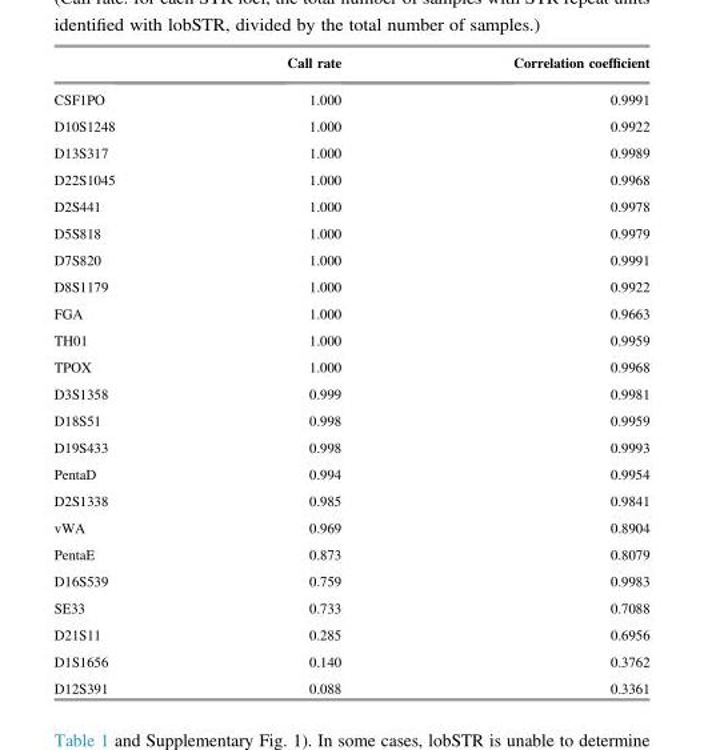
<table><thead><tr><td></td><td>Call rate</td><td>Correlation coefficient</td></tr></thead><tbody><tr><td>CSF1PO</td><td>1.000</td><td>0.9991</td></tr><tr><td>D10S1248</td><td>1.000</td><td>0.9922</td></tr><tr><td>D13S317</td><td>1.000</td><td>0.9989</td></tr><tr><td>D22S1045</td><td>1.000</td><td>0.9968</td></tr><tr><td>D2S441</td><td>1.000</td><td>0.9978</td></tr><tr><td>D5S818</td><td>1.000</td><td>0.9979</td></tr><tr><td>D7S820</td><td>1.000</td><td>0.9991</td></tr><tr><td>D8S1179</td><td>1.000</td><td>0.9922</td></tr><tr><td>FGA</td><td>1.000</td><td>0.9663</td></tr><tr><td>TH01</td><td>1.000</td><td>0.9959</td></tr><tr><td>TPOX</td><td>1.000</td><td>0.9968</td></tr><tr><td>D3S1358</td><td>0.999</td><td>0.9981</td></tr><tr><td>D18S51</td><td>0.998</td><td>0.9959</td></tr><tr><td>D19S433</td><td>0.998</td><td>0.9993</td></tr><tr><td>PentaD</td><td>0.994</td><td>0.9954</td></tr><tr><td>D2S1338</td><td>0.985</td><td>0.9841</td></tr><tr><td>vWA</td><td>0.969</td><td>0.8904</td></tr><tr><td>PentaE</td><td>0.873</td><td>0.8079</td></tr><tr><td>D16S539</td><td>0.759</td><td>0.9983</td></tr><tr><td>SE33</td><td>0.733</td><td>0.7088</td></tr><tr><td>D21S11</td><td>0.285</td><td>0.6956</td></tr><tr><td>D1S1656</td><td>0.140</td><td>0.3762</td></tr><tr><td>D12S391</td><td>0.088</td><td>0.3361</td></tr></tbody></table>